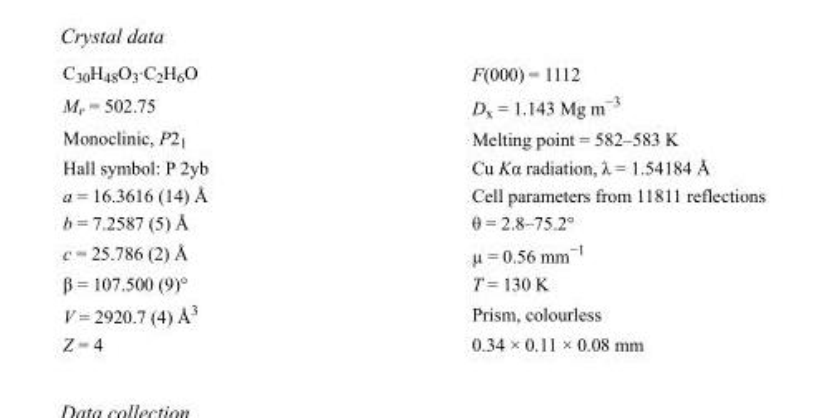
<table><tbody><tr><td>C<sub>30</sub>H<sub>48</sub>O<sub>3</sub>·C<sub>2</sub>H<sub>6</sub>O</td><td>F(000) = 1112</td></tr><tr><td>M<sub>r</sub> = 502.75</td><td>D<sub>x</sub> = 1.143 Mg m<sup>−3</sup></td></tr><tr><td>Monoclinic, P2<sub>1</sub></td><td>Melting point = 582–583 K</td></tr><tr><td>Hall symbol: P 2yb</td><td>Cu Kα radiation, λ = 1.54184 Å</td></tr><tr><td>a = 16.3616 (14) Å</td><td>Cell parameters from 11811 reflections</td></tr><tr><td>b = 7.2587 (5) Å</td><td>θ = 2.8–75.2°</td></tr><tr><td>c = 25.786 (2) Å</td><td>µ = 0.56 mm<sup>−1</sup></td></tr><tr><td>β = 107.500 (9)°</td><td>T = 130 K</td></tr><tr><td>V = 2920.7 (4) Å<sup>3</sup></td><td>Prism, colourless</td></tr><tr><td>Z = 4</td><td>0.34 × 0.11 × 0.08 mm</td></tr></tbody></table>